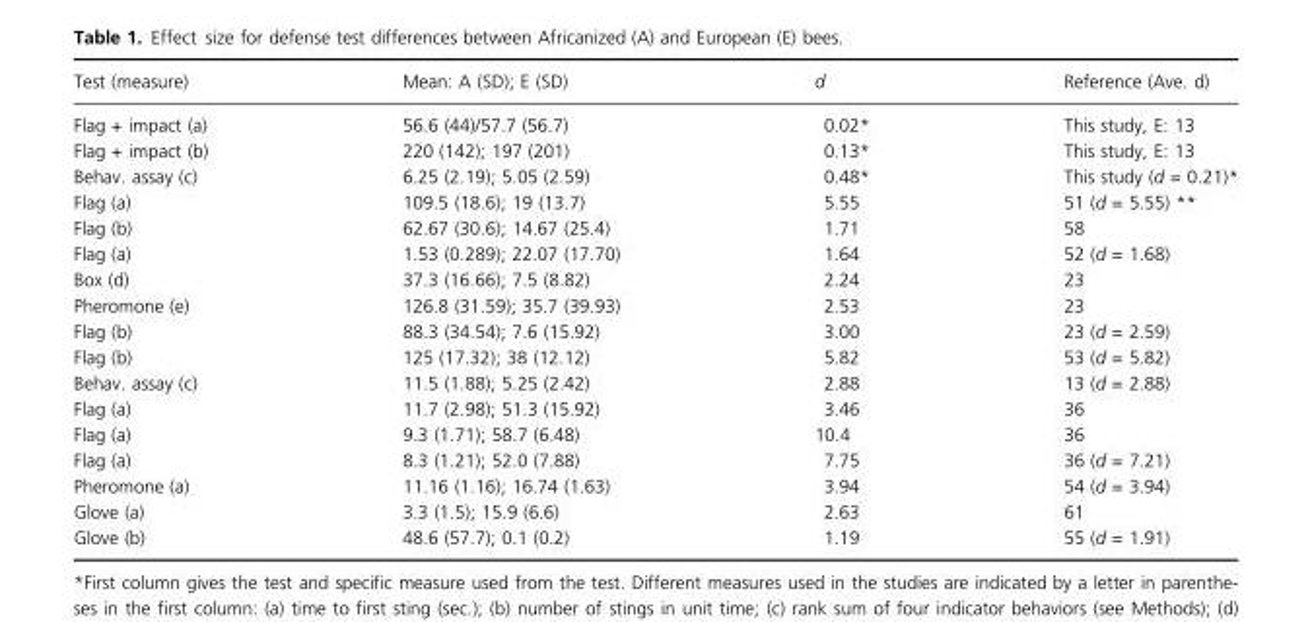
<table><thead><tr><td>Test (measure)</td><td>Mean: A (SD); E (SD)</td><td>d</td><td>Reference (Ave. d)</td></tr></thead><tbody><tr><td>Flag + impact (a)</td><td>56.6 (44)/57.7 (56.7)</td><td>0.02*</td><td>This study, E: 13</td></tr><tr><td>Flag + impact (b)</td><td>220 (142); 197 (201)</td><td>0.13*</td><td>This study, E: 13</td></tr><tr><td>Behav. assay (c)</td><td>6.25 (2.19); 5.05 (2.59)</td><td>0.48*</td><td>This study (d = 0.21)*</td></tr><tr><td>Flag (a)</td><td>109.5 (18.6); 19 (13.7)</td><td>5.55</td><td>51 (d = 5.55) **</td></tr><tr><td>Flag (b)</td><td>62.67 (30.6); 14.67 (25.4)</td><td>1.71</td><td>58</td></tr><tr><td>Flag (a)</td><td>1.53 (0.289); 22.07 (17.70)</td><td>1.64</td><td>52 (d = 1.68)</td></tr><tr><td>Box (d)</td><td>37.3 (16.66); 7.5 (8.82)</td><td>2.24</td><td>23</td></tr><tr><td>Pheromone (e)</td><td>126.8 (31.59); 35.7 (39.93)</td><td>2.53</td><td>23</td></tr><tr><td>Flag (b)</td><td>88.3 (34.54); 7.6 (15.92)</td><td>3.00</td><td>23 (d = 2.59)</td></tr><tr><td>Flag (b)</td><td>125 (17.32); 38 (12.12)</td><td>5.82</td><td>53 (d = 5.82)</td></tr><tr><td>Behav. assay (c)</td><td>11.5 (1.88); 5.25 (2.42)</td><td>2.88</td><td>13 (d = 2.88)</td></tr><tr><td>Flag (a)</td><td>11.7 (2.98); 51.3 (15.92)</td><td>3.46</td><td>36</td></tr><tr><td>Flag (a)</td><td>9.3 (1.71); 58.7 (6.48)</td><td>10.4</td><td>36</td></tr><tr><td>Flag (a)</td><td>8.3 (1.21); 52.0 (7.88)</td><td>7.75</td><td>36 (d = 7.21)</td></tr><tr><td>Pheromone (a)</td><td>11.16 (1.16); 16.74 (1.63)</td><td>3.94</td><td>54 (d = 3.94)</td></tr><tr><td>Glove (a)</td><td>3.3 (1.5); 15.9 (6.6)</td><td>2.63</td><td>61</td></tr><tr><td>Glove (b)</td><td>48.6 (57.7); 0.1 (0.2)</td><td>1.19</td><td>55 (d = 1.91)</td></tr></tbody></table>